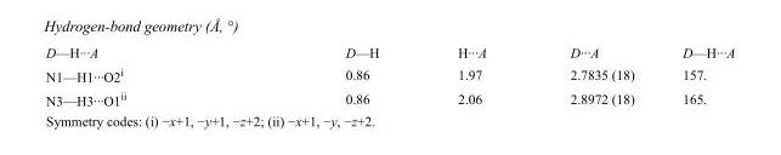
<table><tbody><tr><td>D—H···A</td><td>D—H</td><td>H···A</td><td>D···A</td><td>D—H···A</td></tr><tr><td>N1—H1···O2<sup>i</sup></td><td>0.86</td><td>1.97</td><td>2.7835 (18)</td><td>157.</td></tr><tr><td>N3—H3···O1<sup>ii</sup></td><td>0.86</td><td>2.06</td><td>2.8972 (18)</td><td>165.</td></tr></tbody></table>